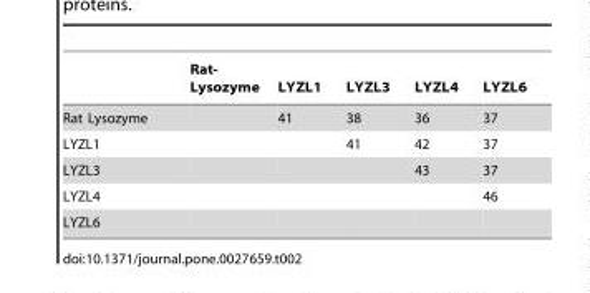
<table><thead><tr><td></td><td>Rat- Lysozyme</td><td>LYZL1</td><td>LYZL3</td><td>LYZL4</td><td>LYZL6</td></tr></thead><tbody><tr><td>Rat Lysozyme</td><td></td><td>41</td><td>38</td><td>36</td><td>37</td></tr><tr><td>LYZL1</td><td></td><td></td><td>41</td><td>42</td><td>37</td></tr><tr><td>LYZL3</td><td></td><td></td><td></td><td>43</td><td>37</td></tr><tr><td>LYZL4</td><td></td><td></td><td></td><td></td><td>46</td></tr><tr><td>LYZL6</td><td></td><td></td><td></td><td></td><td></td></tr></tbody></table>